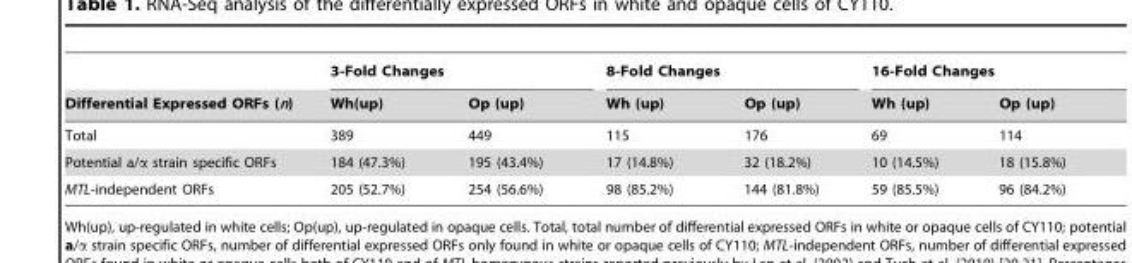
<table><thead><tr><td rowspan="2">Differential Expressed ORFs (n)</td><td colspan="2">3-Fold Changes</td><td colspan="2">8-Fold Changes</td><td colspan="2">16-Fold Changes</td></tr><tr><td>Wh(up)</td><td>Op (up)</td><td>Wh (up)</td><td>Op (up)</td><td>Wh (up)</td><td>Op (up)</td></tr></thead><tbody><tr><td>Total</td><td>389</td><td>449</td><td>115</td><td>176</td><td>69</td><td>114</td></tr><tr><td>Potential a/α strain specific ORFs</td><td>184 (47.3%)</td><td>195 (43.4%)</td><td>17 (14.8%)</td><td>32 (18.2%)</td><td>10 (14.5%)</td><td>18 (15.8%)</td></tr><tr><td>MTL-independent ORFs</td><td>205 (52.7%)</td><td>254 (56.6%)</td><td>98 (85.2%)</td><td>144 (81.8%)</td><td>59 (85.5%)</td><td>96 (84.2%)</td></tr></tbody></table>